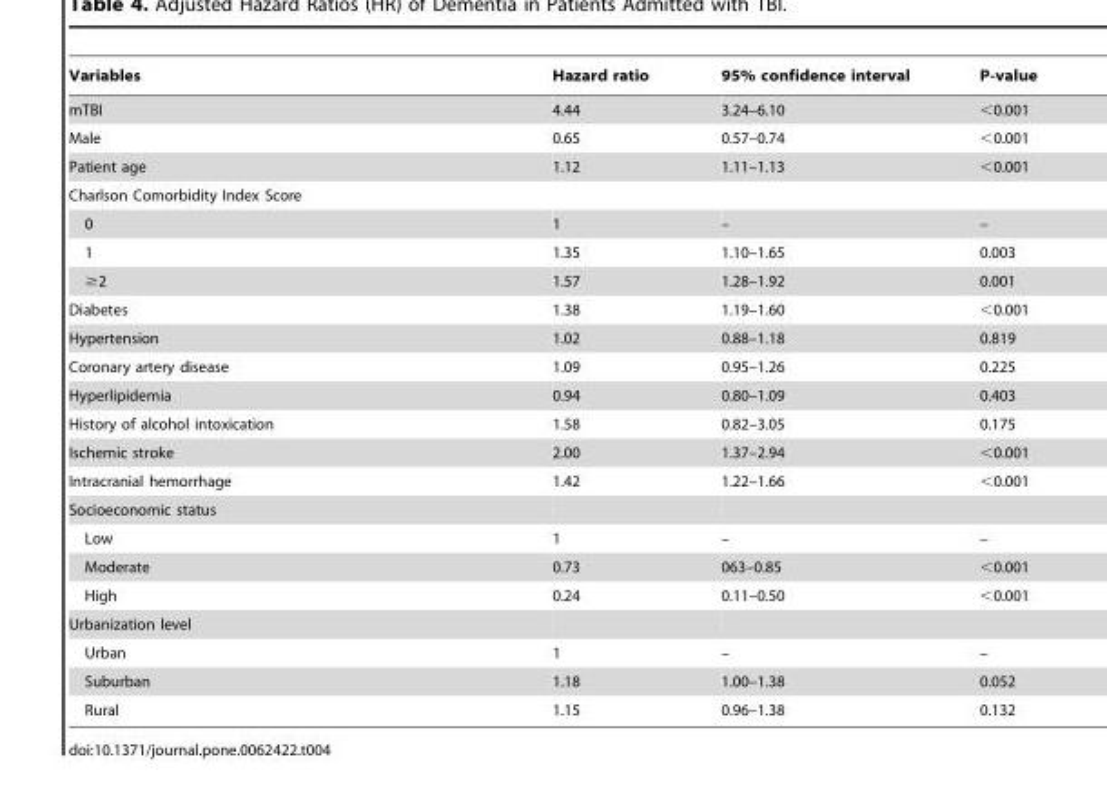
<table><thead><tr><td>Variables</td><td>Hazard ratio</td><td>95% confidence interval</td><td>P-value</td></tr></thead><tbody><tr><td>mTBI</td><td>4.44</td><td>3.24–6.10</td><td>&lt;0.001</td></tr><tr><td>Male</td><td>0.65</td><td>0.57–0.74</td><td>&lt;0.001</td></tr><tr><td>Patient age</td><td>1.12</td><td>1.11–1.13</td><td>&lt;0.001</td></tr><tr><td colspan="4">Charlson Comorbidity Index Score</td></tr><tr><td>0</td><td>1</td><td>–</td><td>–</td></tr><tr><td>1</td><td>1.35</td><td>1.10–1.65</td><td>0.003</td></tr><tr><td>≥2</td><td>1.57</td><td>1.28–1.92</td><td>0.001</td></tr><tr><td>Diabetes</td><td>1.38</td><td>1.19–1.60</td><td>&lt;0.001</td></tr><tr><td>Hypertension</td><td>1.02</td><td>0.88–1.18</td><td>0.819</td></tr><tr><td>Coronary artery disease</td><td>1.09</td><td>0.95–1.26</td><td>0.225</td></tr><tr><td>Hyperlipidemia</td><td>0.94</td><td>0.80–1.09</td><td>0.403</td></tr><tr><td>History of alcohol intoxication</td><td>1.58</td><td>0.82–3.05</td><td>0.175</td></tr><tr><td>Ischemic stroke</td><td>2.00</td><td>1.37–2.94</td><td>&lt;0.001</td></tr><tr><td>Intracranial hemorrhage</td><td>1.42</td><td>1.22–1.66</td><td>&lt;0.001</td></tr><tr><td colspan="4">Socioeconomic status</td></tr><tr><td>Low</td><td>1</td><td>–</td><td>–</td></tr><tr><td>Moderate</td><td>0.73</td><td>063–0.85</td><td>&lt;0.001</td></tr><tr><td>High</td><td>0.24</td><td>0.11–0.50</td><td>&lt;0.001</td></tr><tr><td colspan="4">Urbanization level</td></tr><tr><td>Urban</td><td>1</td><td>–</td><td>–</td></tr><tr><td>Suburban</td><td>1.18</td><td>1.00–1.38</td><td>0.052</td></tr><tr><td>Rural</td><td>1.15</td><td>0.96–1.38</td><td>0.132</td></tr></tbody></table>